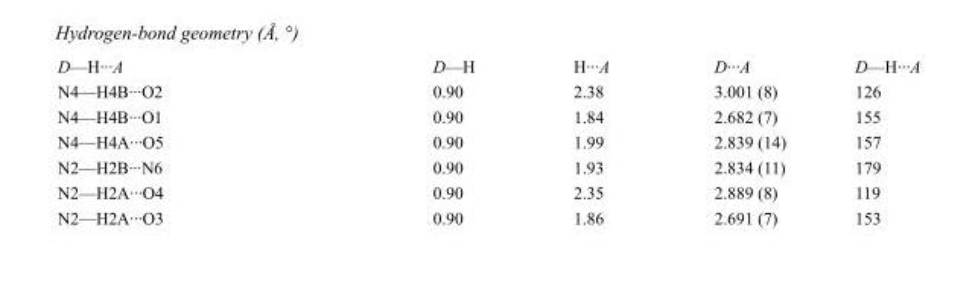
<table><tbody><tr><td>D—H···A</td><td>D—H</td><td>H···A</td><td>D···A</td><td>D—H···A</td></tr><tr><td>N4—H4B···O2</td><td>0.90</td><td>2.38</td><td>3.001 (8)</td><td>126</td></tr><tr><td>N4—H4B···O1</td><td>0.90</td><td>1.84</td><td>2.682 (7)</td><td>155</td></tr><tr><td>N4—H4A···O5</td><td>0.90</td><td>1.99</td><td>2.839 (14)</td><td>157</td></tr><tr><td>N2—H2B···N6</td><td>0.90</td><td>1.93</td><td>2.834 (11)</td><td>179</td></tr><tr><td>N2—H2A···O4</td><td>0.90</td><td>2.35</td><td>2.889 (8)</td><td>119</td></tr><tr><td>N2—H2A···O3</td><td>0.90</td><td>1.86</td><td>2.691 (7)</td><td>153</td></tr></tbody></table>